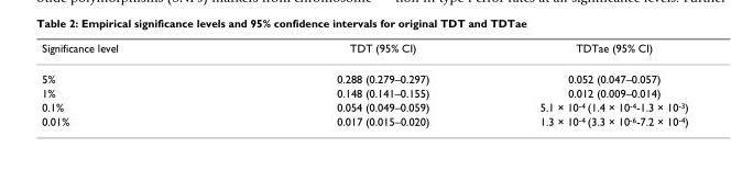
<table><thead><tr><td>Significance level</td><td>TDT (95% CI)</td><td>TDTae (95% CI)</td></tr></thead><tbody><tr><td>5%</td><td>0.288 (0.279–0.297)</td><td>0.052 (0.047–0.057)</td></tr><tr><td>1%</td><td>0.148 (0.141–0.155)</td><td>0.012 (0.009–0.014)</td></tr><tr><td>0.1%</td><td>0.054 (0.049–0.059)</td><td>5.1 × 10-4 (1.4 × 10-4-1.3 × 10-3)</td></tr><tr><td>0.01%</td><td>0.017 (0.015–0.020)</td><td>1.3 × 10-4 (3.3 × 10-6-7.2 × 10-4)</td></tr></tbody></table>